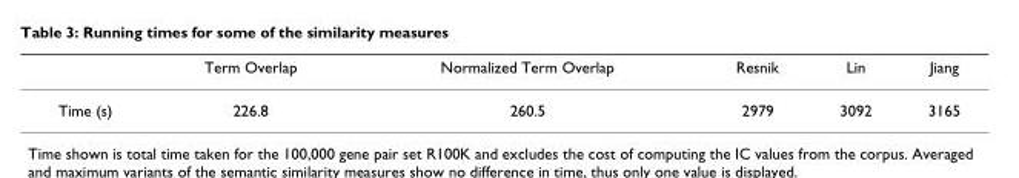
<table><thead><tr><td></td><td>Term Overlap</td><td>Normalized Term Overlap</td><td>Resnik</td><td>Lin</td><td>Jiang</td></tr></thead><tbody><tr><td>Time (s)</td><td>226.8</td><td>260.5</td><td>2979</td><td>3092</td><td>3165</td></tr></tbody></table>